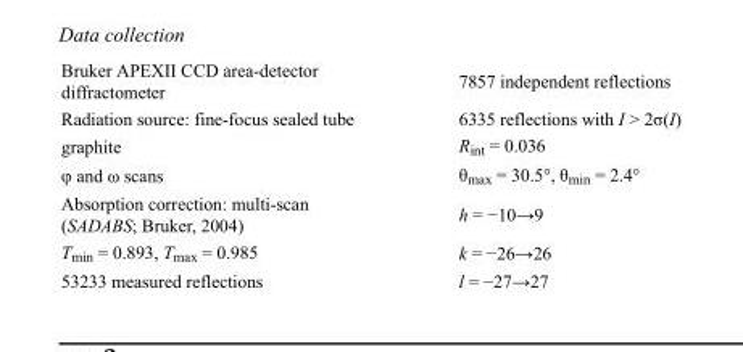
<table><tbody><tr><td>Bruker APEXII CCD area-detector diffractometer</td><td>7857 independent reflections</td></tr><tr><td>Radiation source: fine-focus sealed tube</td><td>6335 reflections with I &gt; 2σ(I)</td></tr><tr><td>graphite</td><td>R<sub>int</sub> = 0.036</td></tr><tr><td>φ and ω scans</td><td>θ<sub>max</sub> = 30.5°, θ<sub>min</sub> = 2.4°</td></tr><tr><td>Absorption correction: multi-scan (SADABS; Bruker, 2004)</td><td>h = −10→9</td></tr><tr><td>T<sub>min</sub> = 0.893, T<sub>max</sub> = 0.985</td><td>k = −26→26</td></tr><tr><td>53233 measured reflections</td><td>l = −27→27</td></tr></tbody></table>